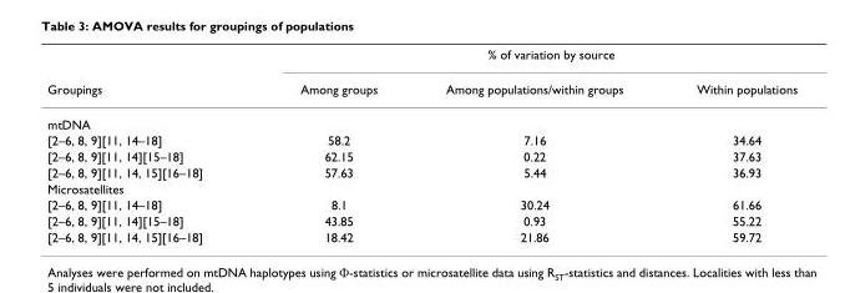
<table><thead><tr><td rowspan="2">Groupings</td><td colspan="3">% of variation by source</td></tr><tr><td>Among groups</td><td>Among populations/within groups</td><td>Within populations</td></tr></thead><tbody><tr><td colspan="4">mtDNA</td></tr><tr><td>[2–6, 8, 9][11, 14–18]</td><td>58.2</td><td>7.16</td><td>34.64</td></tr><tr><td>[2–6, 8, 9][11, 14][15–18]</td><td>62.15</td><td>0.22</td><td>37.63</td></tr><tr><td>[2–6, 8, 9][11, 14, 15][16–18]</td><td>57.63</td><td>5.44</td><td>36.93</td></tr><tr><td colspan="4">Microsatellites</td></tr><tr><td>[2–6, 8, 9][11, 14–18]</td><td>8.1</td><td>30.24</td><td>61.66</td></tr><tr><td>[2–6, 8, 9][11, 14][15–18]</td><td>43.85</td><td>0.93</td><td>55.22</td></tr><tr><td>[2–6, 8, 9][11, 14, 15][16–18]</td><td>18.42</td><td>21.86</td><td>59.72</td></tr></tbody></table>